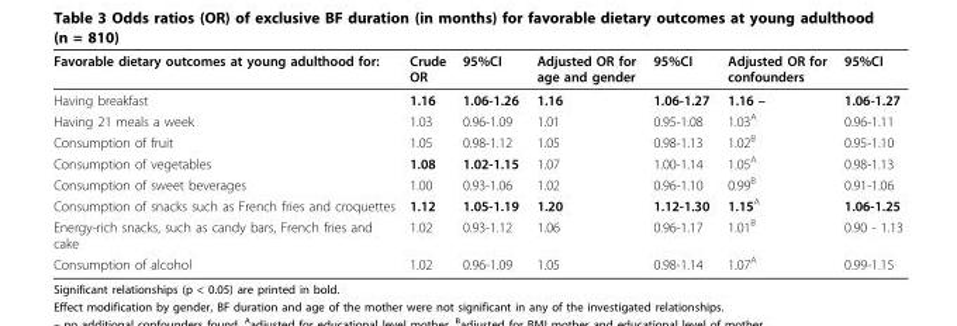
<table><thead><tr><td>Favorable dietary outcomes at young adulthood for:</td><td>Crude OR</td><td>95%CI</td><td>Adjusted OR for age and gender</td><td>95%CI</td><td>Adjusted OR for confounders</td><td>95%CI</td></tr></thead><tbody><tr><td>Having breakfast</td><td>1.16</td><td>1.06-1.26</td><td>1.16</td><td>1.06-1.27</td><td>1.16 –</td><td>1.06-1.27</td></tr><tr><td>Having 21 meals a week</td><td>1.03</td><td>0.96-1.09</td><td>1.01</td><td>0.95-1.08</td><td>1.03<sup>A</sup></td><td>0.96-1.11</td></tr><tr><td>Consumption of fruit</td><td>1.05</td><td>0.98-1.12</td><td>1.05</td><td>0.98-1.13</td><td>1.02<sup>B</sup></td><td>0.95-1.10</td></tr><tr><td>Consumption of vegetables</td><td>1.08</td><td>1.02-1.15</td><td>1.07</td><td>1.00-1.14</td><td>1.05<sup>A</sup></td><td>0.98-1.13</td></tr><tr><td>Consumption of sweet beverages</td><td>1.00</td><td>0.93-1.06</td><td>1.02</td><td>0.96-1.10</td><td>0.99<sup>B</sup></td><td>0.91-1.06</td></tr><tr><td>Consumption of snacks such as French fries and croquettes</td><td>1.12</td><td>1.05-1.19</td><td>1.20</td><td>1.12-1.30</td><td>1.15<sup>A</sup></td><td>1.06-1.25</td></tr><tr><td>Energy-rich snacks, such as candy bars, French fries and cake</td><td>1.02</td><td>0.93-1.12</td><td>1.06</td><td>0.96-1.17</td><td>1.01<sup>B</sup></td><td>0.90 - 1.13</td></tr><tr><td>Consumption of alcohol</td><td>1.02</td><td>0.96-1.09</td><td>1.05</td><td>0.98-1.14</td><td>1.07<sup>A</sup></td><td>0.99-1.15</td></tr></tbody></table>